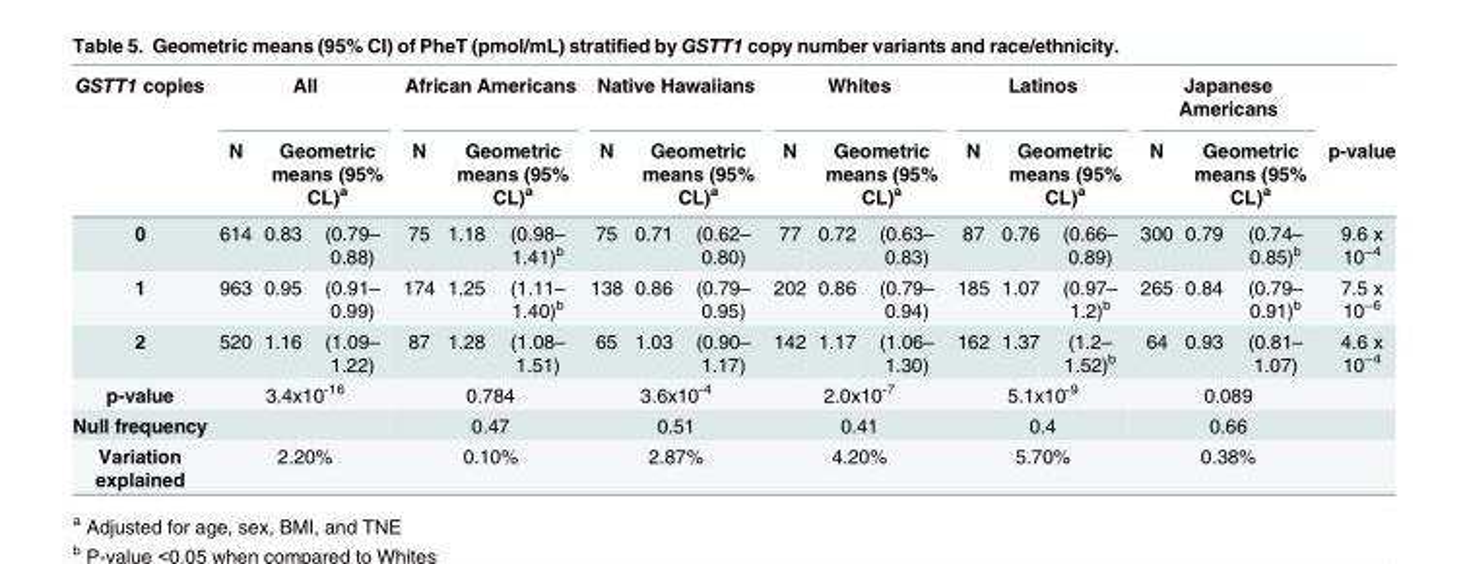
<table><thead><tr><td rowspan="3">GSTT1 copies 0</td><td colspan="3">All</td><td colspan="3">African Americans</td><td colspan="3">Native Hawaiians</td><td colspan="3">Whites</td><td colspan="3">Latinos</td><td colspan="3">Japanese Americans</td><td rowspan="3">p-value 9.6 x 10−4</td></tr><tr><td rowspan="2">N 614</td><td colspan="2">Geometric means (95% CL)<sup>a</sup></td><td rowspan="2">N 75</td><td colspan="2">Geometric means (95% CL)<sup>a</sup></td><td rowspan="2">N 75</td><td colspan="2">Geometric means (95% CL)<sup>a</sup></td><td rowspan="2">N 77</td><td colspan="2">Geometric means (95% CL)<sup>a</sup></td><td rowspan="2">N 87</td><td colspan="2">Geometric means (95% CL)<sup>a</sup></td><td rowspan="2">N 300</td><td colspan="2">Geometric means (95% CL)<sup>a</sup></td></tr><tr><td>0.83</td><td>(0.79– 0.88)</td><td>1.18</td><td>(0.98– 1.41)<sup>b</sup></td><td>0.71</td><td>(0.62– 0.80)</td><td>0.72</td><td>(0.63– 0.83)</td><td>0.76</td><td>(0.66– 0.89)</td><td>0.79</td><td>(0.74– 0.85)<sup>b</sup></td></tr></thead><tbody><tr><td>1</td><td>963</td><td>0.95</td><td>(0.91– 0.99)</td><td>174</td><td>1.25</td><td>(1.11– 1.40)<sup>b</sup></td><td>138</td><td>0.86</td><td>(0.79– 0.95)</td><td>202</td><td>0.86</td><td>(0.79– 0.94)</td><td>185</td><td>1.07</td><td>(0.97– 1.2)<sup>b</sup></td><td>265</td><td>0.84</td><td>(0.79– 0.91)<sup>b</sup></td><td>7.5 x 10<sup>−6</sup></td></tr><tr><td>2</td><td>520</td><td>1.16</td><td>(1.09– 1.22)</td><td>87</td><td>1.28</td><td>(1.08– 1.51)</td><td>65</td><td>1.03</td><td>(0.90– 1.17)</td><td>142</td><td>1.17</td><td>(1.06– 1.30)</td><td>162</td><td>1.37</td><td>(1.2– 1.52)<sup>b</sup></td><td>64</td><td>0.93</td><td>(0.81– 1.07)</td><td>4.6 x 10<sup>−4</sup></td></tr><tr><td>p-value</td><td colspan="3">3.4x10<sup>-16</sup></td><td colspan="3">0.784</td><td colspan="3">3.6x10<sup>-4</sup></td><td colspan="3">2.0x10<sup>-7</sup></td><td colspan="3">5.1x10<sup>-9</sup></td><td colspan="3">0.089</td><td></td></tr><tr><td>Null frequency</td><td colspan="3"></td><td colspan="3">0.47</td><td colspan="3">0.51</td><td colspan="3">0.41</td><td colspan="3">0.4</td><td colspan="3">0.66</td><td></td></tr><tr><td>Variation explained</td><td colspan="3">2.20%</td><td colspan="3">0.10%</td><td colspan="3">2.87%</td><td colspan="3">4.20%</td><td colspan="3">5.70%</td><td colspan="3">0.38%</td><td></td></tr></tbody></table>